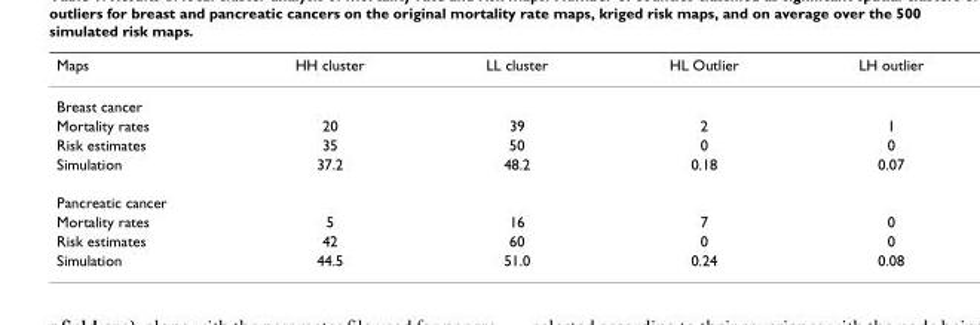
<table><thead><tr><td>Maps</td><td>HH cluster</td><td>LL cluster</td><td>HL Outlier</td><td>LH outlier</td></tr></thead><tbody><tr><td colspan="5">Breast cancer</td></tr><tr><td>Mortality rates</td><td>20</td><td>39</td><td>2</td><td>1</td></tr><tr><td>Risk estimates</td><td>35</td><td>50</td><td>0</td><td>0</td></tr><tr><td>Simulation</td><td>37.2</td><td>48.2</td><td>0.18</td><td>0.07</td></tr><tr><td colspan="5">Pancreatic cancer</td></tr><tr><td>Mortality rates</td><td>5</td><td>16</td><td>7</td><td>0</td></tr><tr><td>Risk estimates</td><td>42</td><td>60</td><td>0</td><td>0</td></tr><tr><td>Simulation</td><td>44.5</td><td>51.0</td><td>0.24</td><td>0.08</td></tr></tbody></table>